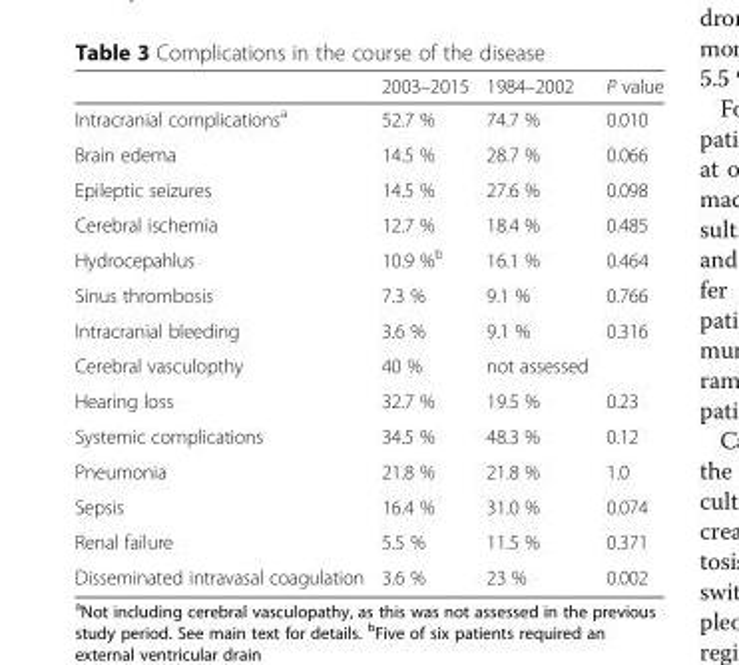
<table><thead><tr><td></td><td>2003–2015</td><td>1984–2002</td><td>P value</td></tr></thead><tbody><tr><td>Intracranial complications<sup>a</sup></td><td>52.7 %</td><td>74.7 %</td><td>0.010</td></tr><tr><td>Brain edema</td><td>14.5 %</td><td>28.7 %</td><td>0.066</td></tr><tr><td>Epileptic seizures</td><td>14.5 %</td><td>27.6 %</td><td>0.098</td></tr><tr><td>Cerebral ischemia</td><td>12.7 %</td><td>18.4 %</td><td>0.485</td></tr><tr><td>Hydrocepahlus</td><td>10.9 %<sup>b</sup></td><td>16.1 %</td><td>0.464</td></tr><tr><td>Sinus thrombosis</td><td>7.3 %</td><td>9.1 %</td><td>0.766</td></tr><tr><td>Intracranial bleeding</td><td>3.6 %</td><td>9.1 %</td><td>0.316</td></tr><tr><td>Cerebral vasculopthy</td><td>40 %</td><td>not assessed</td><td></td></tr><tr><td>Hearing loss</td><td>32.7 %</td><td>19.5 %</td><td>0.23</td></tr><tr><td>Systemic complications</td><td>34.5 %</td><td>48.3 %</td><td>0.12</td></tr><tr><td>Pneumonia</td><td>21.8 %</td><td>21.8 %</td><td>1.0</td></tr><tr><td>Sepsis</td><td>16.4 %</td><td>31.0 %</td><td>0.074</td></tr><tr><td>Renal failure</td><td>5.5 %</td><td>11.5 %</td><td>0.371</td></tr><tr><td>Disseminated intravasal coagulation</td><td>3.6 %</td><td>23 %</td><td>0.002</td></tr></tbody></table>